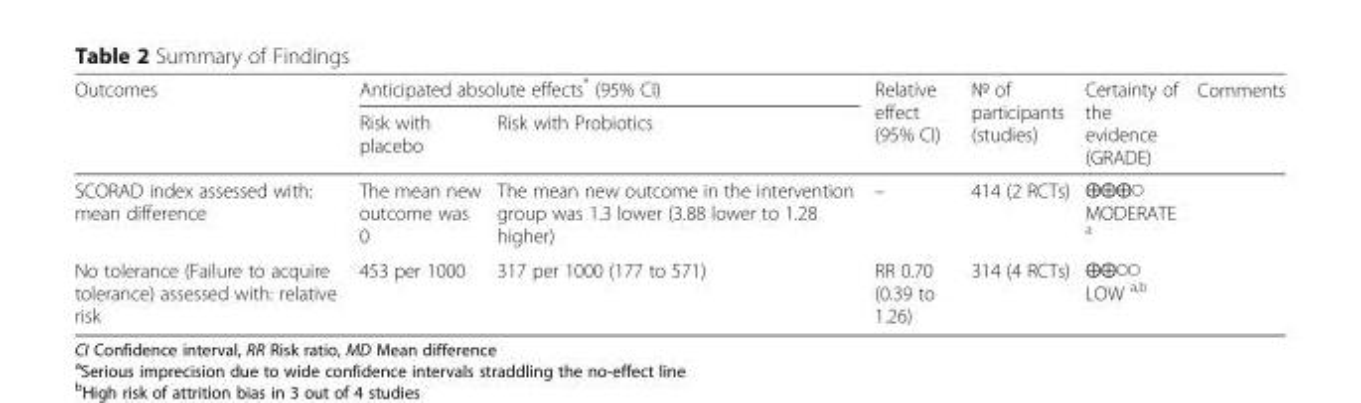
<table><thead><tr><td rowspan="2">Outcomes</td><td colspan="2">Anticipated absolute effects* (95% CI)</td><td rowspan="2">Relative effect (95% CI)</td><td rowspan="2">№ of participants (studies)</td><td rowspan="2">Certainty of the evidence (GRADE)</td><td rowspan="2">Comments</td></tr><tr><td>Risk with placebo</td><td>Risk with Probiotics</td></tr></thead><tbody><tr><td>SCORAD index assessed with: mean difference</td><td>The mean new outcome was 0</td><td>The mean new outcome in the intervention group was 1.3 lower (3.88 lower to 1.28 higher)</td><td>–</td><td>414 (2 RCTs)</td><td>⨁⨁⨁◯ MODERATE <sup>a</sup></td><td></td></tr><tr><td>No tolerance (Failure to acquire tolerance) assessed with: relative risk</td><td>453 per 1000</td><td>317 per 1000 (177 to 571)</td><td>RR 0.70 (0.39 to 1.26)</td><td>314 (4 RCTs)</td><td>⨁⨁◯◯ LOW <sup>a,b</sup></td><td></td></tr></tbody></table>